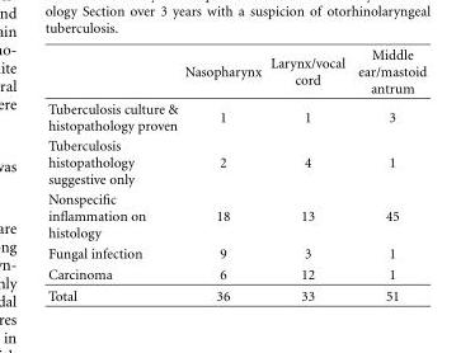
<table><thead><tr><td></td><td>Nasopharynx</td><td>Larynx/vocal cord</td><td>Middle ear/mastoid antrum</td></tr></thead><tbody><tr><td>Tuberculosis culture &amp; histopathology proven</td><td>1</td><td>1</td><td>3</td></tr><tr><td>Tuberculosis histopathology suggestive only</td><td>2</td><td>4</td><td>1</td></tr><tr><td>Nonspecific inflammation on histology</td><td>18</td><td>13</td><td>45</td></tr><tr><td>Fungal infection</td><td>9</td><td>3</td><td>1</td></tr><tr><td>Carcinoma</td><td>6</td><td>12</td><td>1</td></tr><tr><td>Total</td><td>36</td><td>33</td><td>51</td></tr></tbody></table>